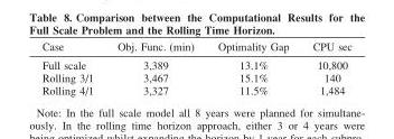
<table><thead><tr><td>Case</td><td>Obj. Func. (min)</td><td>Optimality Gap</td><td>CPU sec</td></tr></thead><tbody><tr><td>Full scale</td><td>3,389</td><td>13.1%</td><td>10,800</td></tr><tr><td>Rolling 3/1</td><td>3,467</td><td>15.1%</td><td>140</td></tr><tr><td>Rolling 4/1</td><td>3,327</td><td>11.5%</td><td>1,484</td></tr></tbody></table>